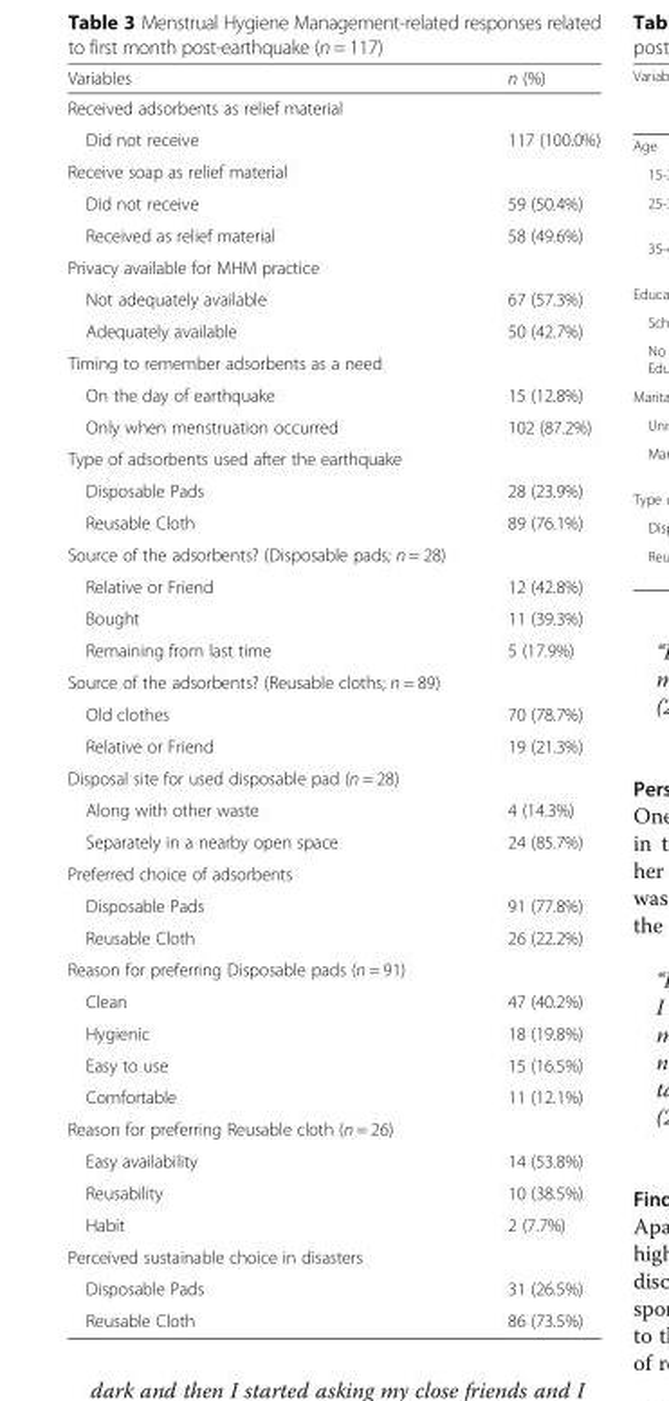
<table><thead><tr><td>Variables</td><td>n (%)</td></tr></thead><tbody><tr><td colspan="2">Received adsorbents as relief material</td></tr><tr><td>Did not receive</td><td>117 (100.0%)</td></tr><tr><td colspan="2">Receive soap as relief material</td></tr><tr><td>Did not receive</td><td>59 (50.4%)</td></tr><tr><td>Received as relief material</td><td>58 (49.6%)</td></tr><tr><td colspan="2">Privacy available for MHM practice</td></tr><tr><td>Not adequately available</td><td>67 (57.3%)</td></tr><tr><td>Adequately available</td><td>50 (42.7%)</td></tr><tr><td colspan="2">Timing to remember adsorbents as a need</td></tr><tr><td>On the day of earthquake</td><td>15 (12.8%)</td></tr><tr><td>Only when menstruation occurred</td><td>102 (87.2%)</td></tr><tr><td colspan="2">Type of adsorbents used after the earthquake</td></tr><tr><td>Disposable Pads</td><td>28 (23.9%)</td></tr><tr><td>Reusable Cloth</td><td>89 (76.1%)</td></tr><tr><td colspan="2">Source of the adsorbents? (Disposable pads; n = 28)</td></tr><tr><td>Relative or Friend</td><td>12 (42.8%)</td></tr><tr><td>Bought</td><td>11 (39.3%)</td></tr><tr><td>Remaining from last time</td><td>5 (17.9%)</td></tr><tr><td colspan="2">Source of the adsorbents? (Reusable cloths; n = 89)</td></tr><tr><td>Old clothes</td><td>70 (78.7%)</td></tr><tr><td>Relative or Friend</td><td>19 (21.3%)</td></tr><tr><td colspan="2">Disposal site for used disposable pad (n = 28)</td></tr><tr><td>Along with other waste</td><td>4 (14.3%)</td></tr><tr><td>Separately in a nearby open space</td><td>24 (85.7%)</td></tr><tr><td colspan="2">Preferred choice of adsorbents</td></tr><tr><td>Disposable Pads</td><td>91 (77.8%)</td></tr><tr><td>Reusable Cloth</td><td>26 (22.2%)</td></tr><tr><td colspan="2">Reason for preferring Disposable pads (n = 91)</td></tr><tr><td>Clean</td><td>47 (40.2%)</td></tr><tr><td>Hygienic</td><td>18 (19.8%)</td></tr><tr><td>Easy to use</td><td>15 (16.5%)</td></tr><tr><td>Comfortable</td><td>11 (12.1%)</td></tr><tr><td colspan="2">Reason for preferring Reusable cloth (n = 26)</td></tr><tr><td>Easy availability</td><td>14 (53.8%)</td></tr><tr><td>Reusability</td><td>10 (38.5%)</td></tr><tr><td>Habit</td><td>2 (7.7%)</td></tr><tr><td colspan="2">Perceived sustainable choice in disasters</td></tr><tr><td>Disposable Pads</td><td>31 (26.5%)</td></tr><tr><td>Reusable Cloth</td><td>86 (73.5%)</td></tr></tbody></table>